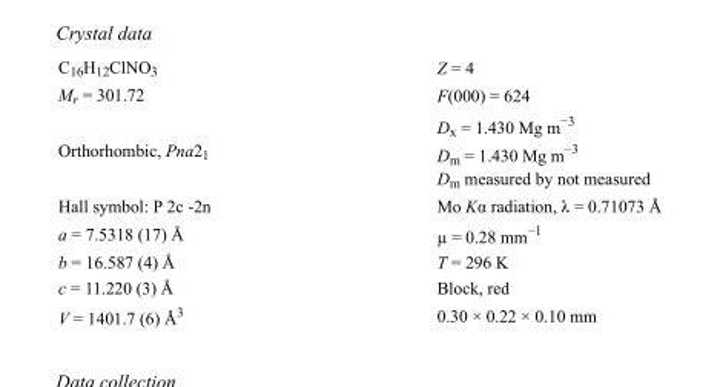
<table><tbody><tr><td>C<sub>16</sub>H<sub>12</sub>ClNO<sub>3</sub></td><td>Z = 4</td></tr><tr><td>M<sub>r</sub> = 301.72</td><td>F(000) = 624</td></tr><tr><td>Orthorhombic, Pna2<sub>1</sub></td><td>D<sub>x</sub> = 1.430 Mg m<sup>−3</sup> D<sub>m</sub> = 1.430 Mg m<sup>−3</sup> D<sub>m</sub> measured by not measured</td></tr><tr><td>Hall symbol: P 2c -2n</td><td>Mo Kα radiation, λ = 0.71073 Å</td></tr><tr><td>a = 7.5318 (17) Å</td><td>µ = 0.28 mm<sup>−1</sup></td></tr><tr><td>b = 16.587 (4) Å</td><td>T = 296 K</td></tr><tr><td>c = 11.220 (3) Å</td><td>Block, red</td></tr><tr><td>V = 1401.7 (6) Å<sup>3</sup></td><td>0.30 × 0.22 × 0.10 mm</td></tr></tbody></table>